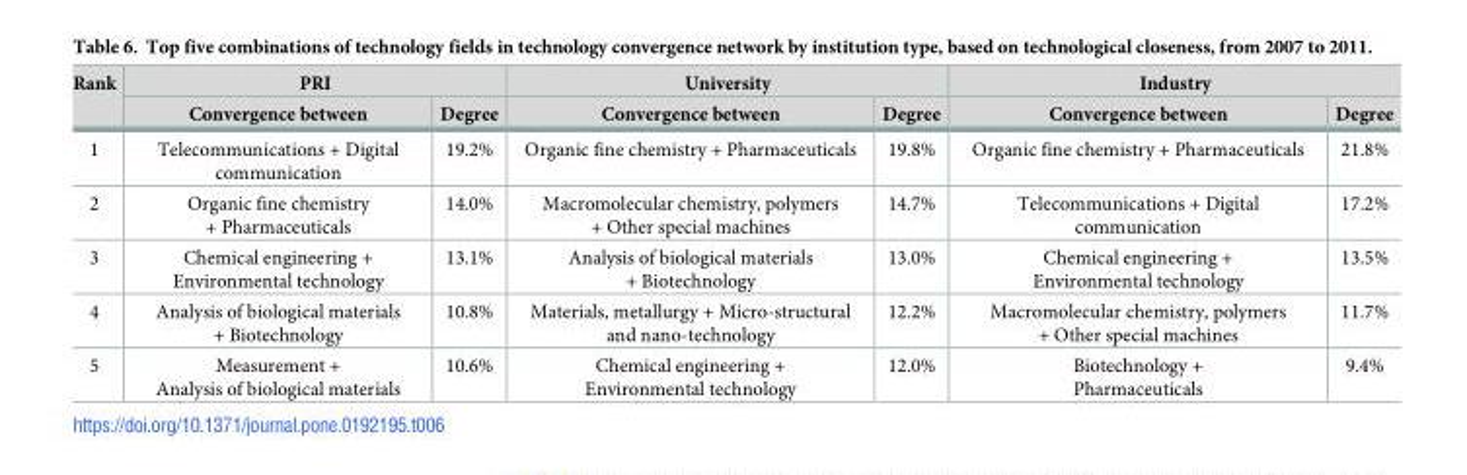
<table><thead><tr><td rowspan="2">Rank</td><td colspan="2">PRI</td><td colspan="2">University</td><td colspan="2">Industry</td></tr><tr><td>Convergence between</td><td>Degree</td><td>Convergence between</td><td>Degree</td><td>Convergence between</td><td>Degree</td></tr></thead><tbody><tr><td>1</td><td>Telecommunications + Digital communication</td><td>19.2%</td><td>Organic fine chemistry + Pharmaceuticals</td><td>19.8%</td><td>Organic fine chemistry + Pharmaceuticals</td><td>21.8%</td></tr><tr><td>2</td><td>Organic fine chemistry + Pharmaceuticals</td><td>14.0%</td><td>Macromolecular chemistry, polymers + Other special machines</td><td>14.7%</td><td>Telecommunications + Digital communication</td><td>17.2%</td></tr><tr><td>3</td><td>Chemical engineering + Environmental technology</td><td>13.1%</td><td>Analysis of biological materials + Biotechnology</td><td>13.0%</td><td>Chemical engineering + Environmental technology</td><td>13.5%</td></tr><tr><td>4</td><td>Analysis of biological materials + Biotechnology</td><td>10.8%</td><td>Materials, metallurgy + Micro-structural and nano-technology</td><td>12.2%</td><td>Macromolecular chemistry, polymers + Other special machines</td><td>11.7%</td></tr><tr><td>5</td><td>Measurement + Analysis of biological materials</td><td>10.6%</td><td>Chemical engineering + Environmental technology</td><td>12.0%</td><td>Biotechnology + Pharmaceuticals</td><td>9.4%</td></tr></tbody></table>